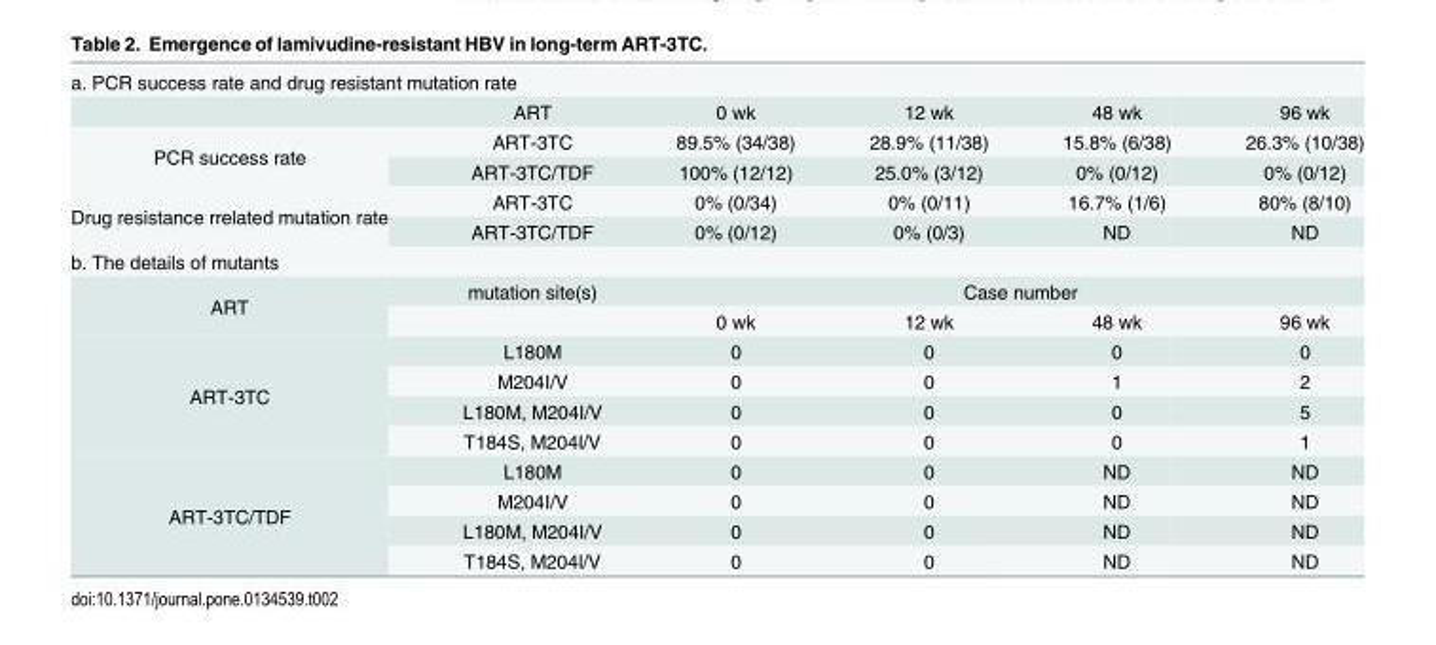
<table><tbody><tr><td colspan="6">a. PCR success rate and drug resistant mutation rate</td></tr><tr><td></td><td>ART</td><td>0 wk</td><td>12 wk</td><td>48 wk</td><td>96 wk</td></tr><tr><td rowspan="2">PCR success rate</td><td>ART-3TC</td><td>89.5% (34/38)</td><td>28.9% (11/38)</td><td>15.8% (6/38)</td><td>26.3% (10/38)</td></tr><tr><td>ART-3TC/TDF</td><td>100% (12/12)</td><td>25.0% (3/12)</td><td>0% (0/12)</td><td>0% (0/12)</td></tr><tr><td rowspan="2">Drug resistance rrelated mutation rate</td><td>ART-3TC</td><td>0% (0/34)</td><td>0% (0/11)</td><td>16.7% (1/6)</td><td>80% (8/10)</td></tr><tr><td>ART-3TC/TDF</td><td>0% (0/12)</td><td>0% (0/3)</td><td>ND</td><td>ND</td></tr><tr><td colspan="6">b. The details of mutants</td></tr><tr><td rowspan="2">ART</td><td>mutation site(s)</td><td colspan="4">Case number</td></tr><tr><td></td><td>0 wk</td><td>12 wk</td><td>48 wk</td><td>96 wk</td></tr><tr><td rowspan="4">ART-3TC</td><td>L180M</td><td>0</td><td>0</td><td>0</td><td>0</td></tr><tr><td>M204I/V</td><td>0</td><td>0</td><td>1</td><td>2</td></tr><tr><td>L180M, M204I/V</td><td>0</td><td>0</td><td>0</td><td>5</td></tr><tr><td>T184S, M204I/V</td><td>0</td><td>0</td><td>0</td><td>1</td></tr><tr><td rowspan="4">ART-3TC/TDF</td><td>L180M</td><td>0</td><td>0</td><td>ND</td><td>ND</td></tr><tr><td>M204I/V</td><td>0</td><td>0</td><td>ND</td><td>ND</td></tr><tr><td>L180M, M204I/V</td><td>0</td><td>0</td><td>ND</td><td>ND</td></tr><tr><td>T184S, M204I/V</td><td>0</td><td>0</td><td>ND</td><td>ND</td></tr></tbody></table>